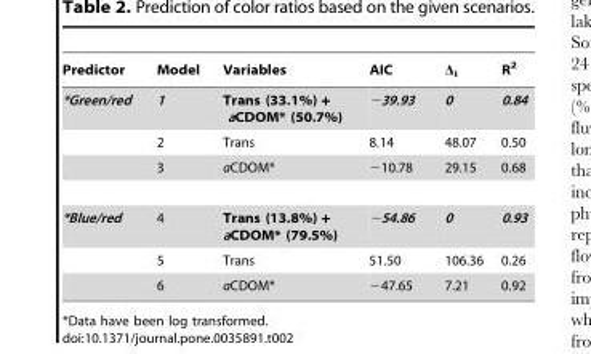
<table><thead><tr><td>Predictor</td><td>Model</td><td>Variables</td><td>AIC</td><td>Δ<sub>i</sub></td><td>R<sup>2</sup></td></tr></thead><tbody><tr><td rowspan="3">*Green/red</td><td>1</td><td>Trans (33.1%) + aCDOM* (50.7%)</td><td>−39.93</td><td>0</td><td>0.84</td></tr><tr><td>2</td><td>Trans</td><td>8.14</td><td>48.07</td><td>0.50</td></tr><tr><td>3</td><td>aCDOM*</td><td>−10.78</td><td>29.15</td><td>0.68</td></tr><tr><td rowspan="3">*Blue/red</td><td>4</td><td>Trans (13.8%) + aCDOM* (79.5%)</td><td>−54.86</td><td>0</td><td>0.93</td></tr><tr><td>5</td><td>Trans</td><td>51.50</td><td>106.36</td><td>0.26</td></tr><tr><td>6</td><td>aCDOM*</td><td>−47.65</td><td>7.21</td><td>0.92</td></tr></tbody></table>